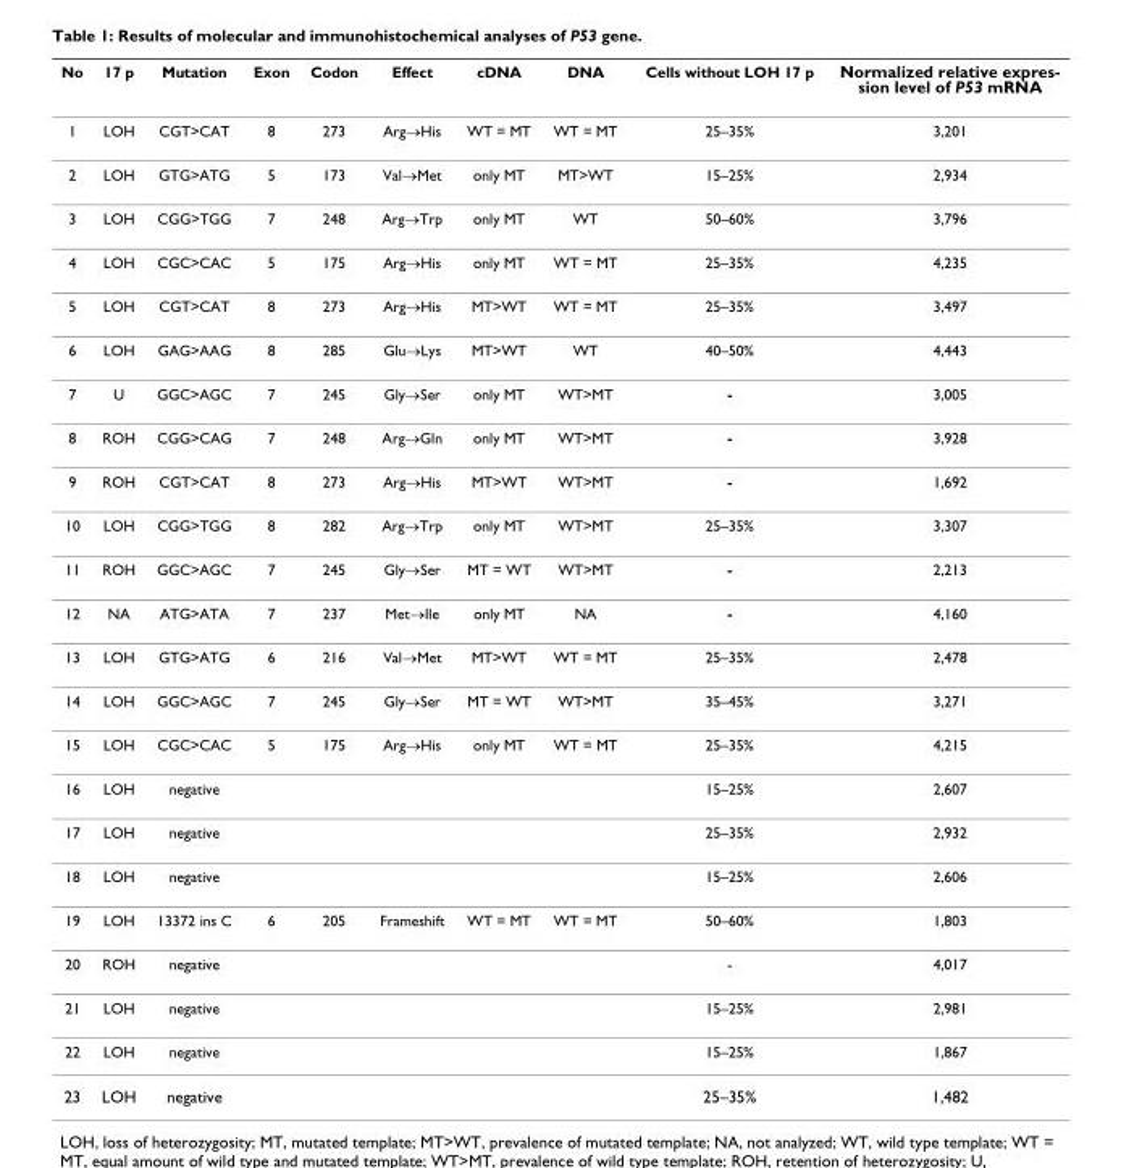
<table><thead><tr><td>No</td><td>17 p</td><td>Mutation</td><td>Exon</td><td>Codon</td><td>Effect</td><td>cDNA</td><td>DNA</td><td>Cells without LOH 17 p</td><td>Normalized relative expres- sion level of P53 mRNA</td></tr></thead><tbody><tr><td>1</td><td>LOH</td><td>CGT&gt;CAT</td><td>8</td><td>273</td><td>Arg→His</td><td>WT = MT</td><td>WT = MT</td><td>25–35%</td><td>3,201</td></tr><tr><td>2</td><td>LOH</td><td>GTG&gt;ATG</td><td>5</td><td>173</td><td>Val→Met</td><td>only MT</td><td>MT&gt;WT</td><td>15–25%</td><td>2,934</td></tr><tr><td>3</td><td>LOH</td><td>CGG&gt;TGG</td><td>7</td><td>248</td><td>Arg→Trp</td><td>only MT</td><td>WT</td><td>50–60%</td><td>3,796</td></tr><tr><td>4</td><td>LOH</td><td>CGC&gt;CAC</td><td>5</td><td>175</td><td>Arg→His</td><td>only MT</td><td>WT = MT</td><td>25–35%</td><td>4,235</td></tr><tr><td>5</td><td>LOH</td><td>CGT&gt;CAT</td><td>8</td><td>273</td><td>Arg→His</td><td>MT&gt;WT</td><td>WT = MT</td><td>25–35%</td><td>3,497</td></tr><tr><td>6</td><td>LOH</td><td>GAG&gt;AAG</td><td>8</td><td>285</td><td>Glu→Lys</td><td>MT&gt;WT</td><td>WT</td><td>40–50%</td><td>4,443</td></tr><tr><td>7</td><td>U</td><td>GGC&gt;AGC</td><td>7</td><td>245</td><td>Gly→Ser</td><td>only MT</td><td>WT&gt;MT</td><td>-</td><td>3,005</td></tr><tr><td>8</td><td>ROH</td><td>CGG&gt;CAG</td><td>7</td><td>248</td><td>Arg→Gln</td><td>only MT</td><td>WT&gt;MT</td><td>-</td><td>3,928</td></tr><tr><td>9</td><td>ROH</td><td>CGT&gt;CAT</td><td>8</td><td>273</td><td>Arg→His</td><td>MT&gt;WT</td><td>WT&gt;MT</td><td>-</td><td>1,692</td></tr><tr><td>10</td><td>LOH</td><td>CGG&gt;TGG</td><td>8</td><td>282</td><td>Arg→Trp</td><td>only MT</td><td>WT&gt;MT</td><td>25–35%</td><td>3,307</td></tr><tr><td>11</td><td>ROH</td><td>GGC&gt;AGC</td><td>7</td><td>245</td><td>Gly→Ser</td><td>MT = WT</td><td>WT&gt;MT</td><td>-</td><td>2,213</td></tr><tr><td>12</td><td>NA</td><td>ATG&gt;ATA</td><td>7</td><td>237</td><td>Met→Ile</td><td>only MT</td><td>NA</td><td>-</td><td>4,160</td></tr><tr><td>13</td><td>LOH</td><td>GTG&gt;ATG</td><td>6</td><td>216</td><td>Val→Met</td><td>MT&gt;WT</td><td>WT = MT</td><td>25–35%</td><td>2,478</td></tr><tr><td>14</td><td>LOH</td><td>GGC&gt;AGC</td><td>7</td><td>245</td><td>Gly→Ser</td><td>MT = WT</td><td>WT&gt;MT</td><td>35–45%</td><td>3,271</td></tr><tr><td>15</td><td>LOH</td><td>CGC&gt;CAC</td><td>5</td><td>175</td><td>Arg→His</td><td>only MT</td><td>WT = MT</td><td>25–35%</td><td>4,215</td></tr><tr><td>16</td><td>LOH</td><td>negative</td><td></td><td></td><td></td><td></td><td></td><td>15–25%</td><td>2,607</td></tr><tr><td>17</td><td>LOH</td><td>negative</td><td></td><td></td><td></td><td></td><td></td><td>25–35%</td><td>2,932</td></tr><tr><td>18</td><td>LOH</td><td>negative</td><td></td><td></td><td></td><td></td><td></td><td>15–25%</td><td>2,606</td></tr><tr><td>19</td><td>LOH</td><td>13372 ins C</td><td>6</td><td>205</td><td>Frameshift</td><td>WT = MT</td><td>WT = MT</td><td>50–60%</td><td>1,803</td></tr><tr><td>20</td><td>ROH</td><td>negative</td><td></td><td></td><td></td><td></td><td></td><td>-</td><td>4,017</td></tr><tr><td>21</td><td>LOH</td><td>negative</td><td></td><td></td><td></td><td></td><td></td><td>15–25%</td><td>2,981</td></tr><tr><td>22</td><td>LOH</td><td>negative</td><td></td><td></td><td></td><td></td><td></td><td>15–25%</td><td>1,867</td></tr><tr><td>23</td><td>LOH</td><td>negative</td><td></td><td></td><td></td><td></td><td></td><td>25–35%</td><td>1,482</td></tr></tbody></table>